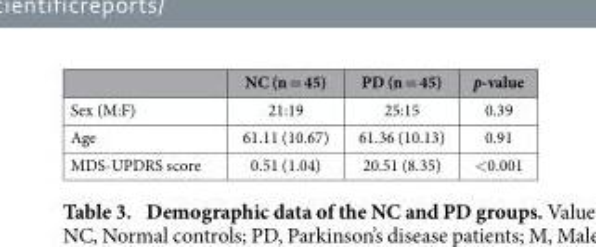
<table><thead><tr><td></td><td>NC (n = 45)</td><td>PD (n = 45)</td><td>p-value</td></tr></thead><tbody><tr><td>Sex (M:F)</td><td>21:19</td><td>25:15</td><td>0.39</td></tr><tr><td>Age</td><td>61.11 (10.67)</td><td>61.36 (10.13)</td><td>0.91</td></tr><tr><td>MDS-UPDRS score</td><td>0.51 (1.04)</td><td>20.51 (8.35)</td><td>&lt; 0.001</td></tr></tbody></table>